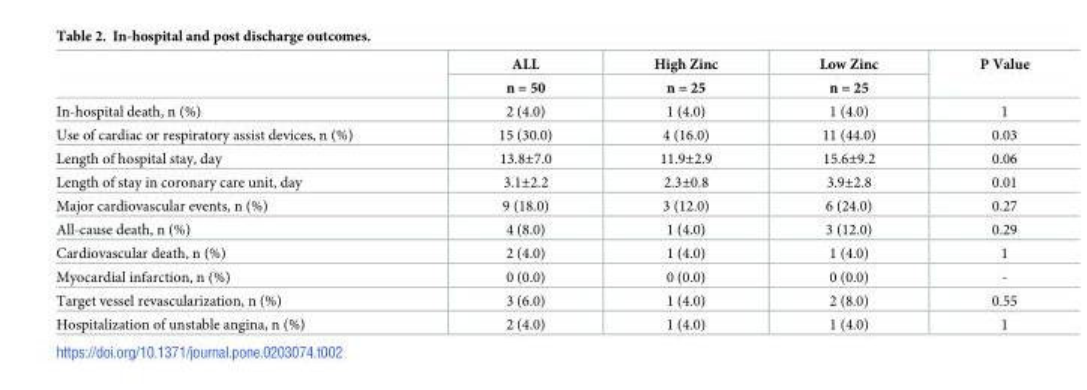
<table><thead><tr><td rowspan="2"></td><td rowspan="2">ALL n = 50</td><td rowspan="2">High Zinc n = 25</td><td rowspan="2">Low Zinc n = 25</td><td rowspan="2">P Value</td></tr><tr></tr></thead><tbody><tr><td>In-hospital death, n (%)</td><td>2 (4.0)</td><td>1 (4.0)</td><td>1 (4.0)</td><td>1</td></tr><tr><td>Use of cardiac or respiratory assist devices, n (%)</td><td>15 (30.0)</td><td>4 (16.0)</td><td>11 (44.0)</td><td>0.03</td></tr><tr><td>Length of hospital stay, day</td><td>13.8±7.0</td><td>11.9±2.9</td><td>15.6±9.2</td><td>0.06</td></tr><tr><td>Length of stay in coronary care unit, day</td><td>3.1±2.2</td><td>2.3±0.8</td><td>3.9±2.8</td><td>0.01</td></tr><tr><td>Major cardiovascular events, n (%)</td><td>9 (18.0)</td><td>3 (12.0)</td><td>6 (24.0)</td><td>0.27</td></tr><tr><td>All-cause death, n (%)</td><td>4 (8.0)</td><td>1 (4.0)</td><td>3 (12.0)</td><td>0.29</td></tr><tr><td>Cardiovascular death, n (%)</td><td>2 (4.0)</td><td>1 (4.0)</td><td>1 (4.0)</td><td>1</td></tr><tr><td>Myocardial infarction, n (%)</td><td>0 (0.0)</td><td>0 (0.0)</td><td>0 (0.0)</td><td>-</td></tr><tr><td>Target vessel revascularization, n (%)</td><td>3 (6.0)</td><td>1 (4.0)</td><td>2 (8.0)</td><td>0.55</td></tr><tr><td>Hospitalization of unstable angina, n (%)</td><td>2 (4.0)</td><td>1 (4.0)</td><td>1 (4.0)</td><td>1</td></tr></tbody></table>